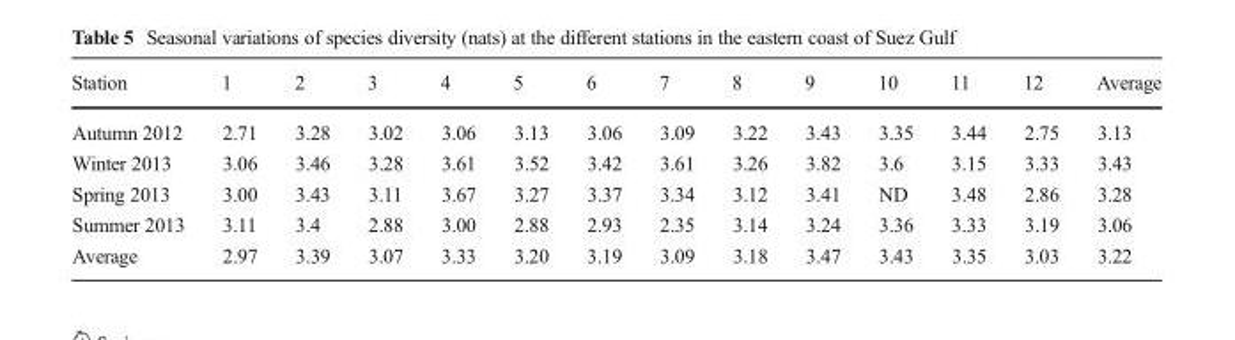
<table><thead><tr><td>Station</td><td>1</td><td>2</td><td>3</td><td>4</td><td>5</td><td>6</td><td>7</td><td>8</td><td>9</td><td>10</td><td>11</td><td>12</td><td>Average</td></tr></thead><tbody><tr><td>Autumn 2012</td><td>2.71</td><td>3.28</td><td>3.02</td><td>3.06</td><td>3.13</td><td>3.06</td><td>3.09</td><td>3.22</td><td>3.43</td><td>3.35</td><td>3.44</td><td>2.75</td><td>3.13</td></tr><tr><td>Winter 2013</td><td>3.06</td><td>3.46</td><td>3.28</td><td>3.61</td><td>3.52</td><td>3.42</td><td>3.61</td><td>3.26</td><td>3.82</td><td>3.6</td><td>3.15</td><td>3.33</td><td>3.43</td></tr><tr><td>Spring 2013</td><td>3.00</td><td>3.43</td><td>3.11</td><td>3.67</td><td>3.27</td><td>3.37</td><td>3.34</td><td>3.12</td><td>3.41</td><td>ND</td><td>3.48</td><td>2.86</td><td>3.28</td></tr><tr><td>Summer 2013</td><td>3.11</td><td>3.4</td><td>2.88</td><td>3.00</td><td>2.88</td><td>2.93</td><td>2.35</td><td>3.14</td><td>3.24</td><td>3.36</td><td>3.33</td><td>3.19</td><td>3.06</td></tr><tr><td>Average</td><td>2.97</td><td>3.39</td><td>3.07</td><td>3.33</td><td>3.20</td><td>3.19</td><td>3.09</td><td>3.18</td><td>3.47</td><td>3.43</td><td>3.35</td><td>3.03</td><td>3.22</td></tr></tbody></table>